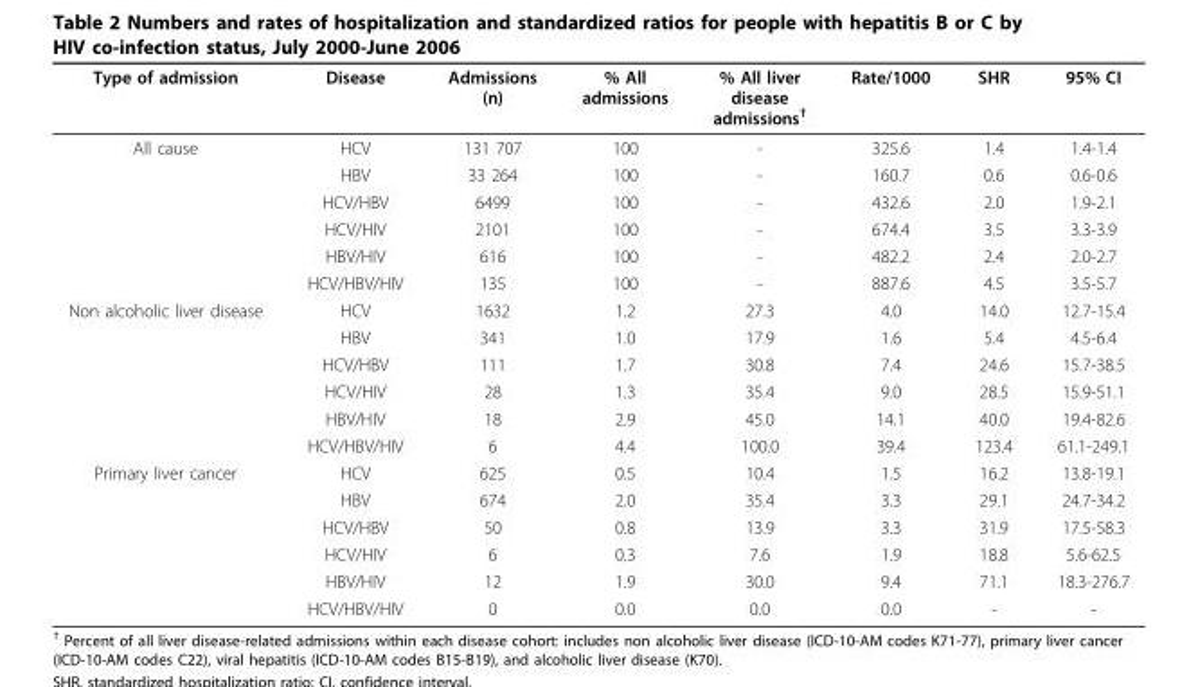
<table><thead><tr><td>Type of admission</td><td>Disease</td><td>Admissions (n)</td><td>% All admissions</td><td>% All liver disease admissions<sup>†</sup></td><td>Rate/1000</td><td>SHR</td><td>95% CI</td></tr></thead><tbody><tr><td rowspan="6">All cause</td><td>HCV</td><td>131 707</td><td>100</td><td>-</td><td>325.6</td><td>1.4</td><td>1.4-1.4</td></tr><tr><td>HBV</td><td>33 264</td><td>100</td><td>-</td><td>160.7</td><td>0.6</td><td>0.6-0.6</td></tr><tr><td>HCV/HBV</td><td>6499</td><td>100</td><td>-</td><td>432.6</td><td>2.0</td><td>1.9-2.1</td></tr><tr><td>HCV/HIV</td><td>2101</td><td>100</td><td>-</td><td>674.4</td><td>3.5</td><td>3.3-3.9</td></tr><tr><td>HBV/HIV</td><td>616</td><td>100</td><td>-</td><td>482.2</td><td>2.4</td><td>2.0-2.7</td></tr><tr><td>HCV/HBV/HIV</td><td>135</td><td>100</td><td>-</td><td>887.6</td><td>4.5</td><td>3.5-5.7</td></tr><tr><td rowspan="6">Non alcoholic liver disease</td><td>HCV</td><td>1632</td><td>1.2</td><td>27.3</td><td>4.0</td><td>14.0</td><td>12.7-15.4</td></tr><tr><td>HBV</td><td>341</td><td>1.0</td><td>17.9</td><td>1.6</td><td>5.4</td><td>4.5-6.4</td></tr><tr><td>HCV/HBV</td><td>111</td><td>1.7</td><td>30.8</td><td>7.4</td><td>24.6</td><td>15.7-38.5</td></tr><tr><td>HCV/HIV</td><td>28</td><td>1.3</td><td>35.4</td><td>9.0</td><td>28.5</td><td>15.9-51.1</td></tr><tr><td>HBV/HIV</td><td>18</td><td>2.9</td><td>45.0</td><td>14.1</td><td>40.0</td><td>19.4-82.6</td></tr><tr><td>HCV/HBV/HIV</td><td>6</td><td>4.4</td><td>100.0</td><td>39.4</td><td>123.4</td><td>61.1-249.1</td></tr><tr><td rowspan="6">Primary liver cancer</td><td>HCV</td><td>625</td><td>0.5</td><td>10.4</td><td>1.5</td><td>16.2</td><td>13.8-19.1</td></tr><tr><td>HBV</td><td>674</td><td>2.0</td><td>35.4</td><td>3.3</td><td>29.1</td><td>24.7-34.2</td></tr><tr><td>HCV/HBV</td><td>50</td><td>0.8</td><td>13.9</td><td>3.3</td><td>31.9</td><td>17.5-58.3</td></tr><tr><td>HCV/HIV</td><td>6</td><td>0.3</td><td>7.6</td><td>1.9</td><td>18.8</td><td>5.6-62.5</td></tr><tr><td>HBV/HIV</td><td>12</td><td>1.9</td><td>30.0</td><td>9.4</td><td>71.1</td><td>18.3-276.7</td></tr><tr><td>HCV/HBV/HIV</td><td>0</td><td>0.0</td><td>0.0</td><td>0.0</td><td>-</td><td>-</td></tr></tbody></table>